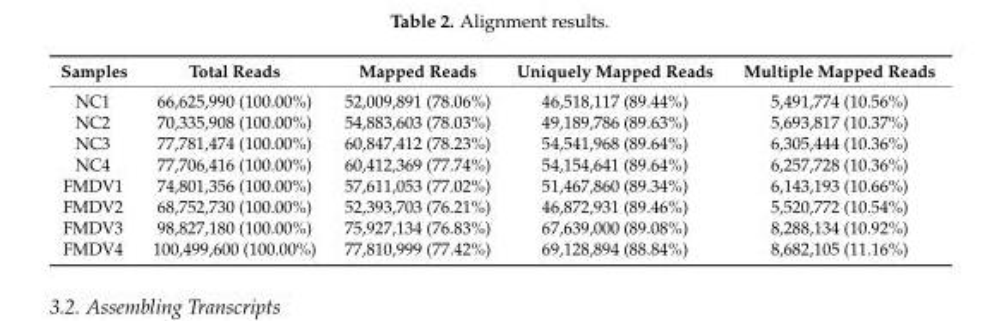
<table><thead><tr><td>Samples</td><td>Total Reads</td><td>Mapped Reads</td><td>Uniquely Mapped Reads</td><td>Multiple Mapped Reads</td></tr></thead><tbody><tr><td>NC1</td><td>66,625,990 (100.00%)</td><td>52,009,891 (78.06%)</td><td>46,518,117 (89.44%)</td><td>5,491,774 (10.56%)</td></tr><tr><td>NC2</td><td>70,335,908 (100.00%)</td><td>54,883,603 (78.03%)</td><td>49,189,786 (89.63%)</td><td>5,693,817 (10.37%)</td></tr><tr><td>NC3</td><td>77,781,474 (100.00%)</td><td>60,847,412 (78.23%)</td><td>54,541,968 (89.64%)</td><td>6,305,444 (10.36%)</td></tr><tr><td>NC4</td><td>77,706,416 (100.00%)</td><td>60,412,369 (77.74%)</td><td>54,154,641 (89.64%)</td><td>6,257,728 (10.36%)</td></tr><tr><td>FMDV1</td><td>74,801,356 (100.00%)</td><td>57,611,053 (77.02%)</td><td>51,467,860 (89.34%)</td><td>6,143,193 (10.66%)</td></tr><tr><td>FMDV2</td><td>68,752,730 (100.00%)</td><td>52,393,703 (76.21%)</td><td>46,872,931 (89.46%)</td><td>5,520,772 (10.54%)</td></tr><tr><td>FMDV3</td><td>98,827,180 (100.00%)</td><td>75,927,134 (76.83%)</td><td>67,639,000 (89.08%)</td><td>8,288,134 (10.92%)</td></tr><tr><td>FMDV4</td><td>100,499,600 (100.00%)</td><td>77,810,999 (77.42%)</td><td>69,128,894 (88.84%)</td><td>8,682,105 (11.16%)</td></tr></tbody></table>